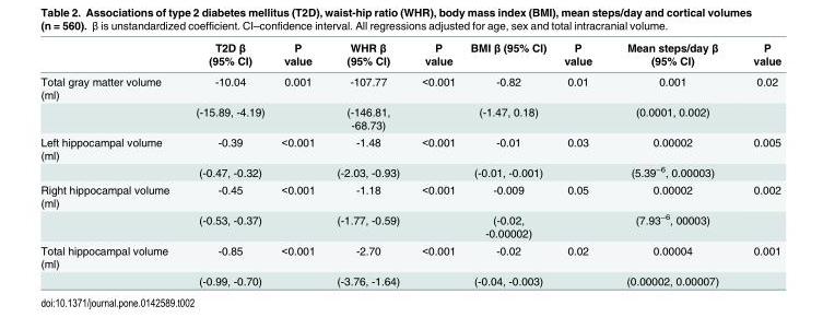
<table><thead><tr><td></td><td>T2D β (95% CI)</td><td>P value</td><td>WHR β (95% CI)</td><td>P value</td><td>BMI β (95% CI)</td><td>P value</td><td>Mean steps/day β (95% CI)</td><td>P value</td></tr></thead><tbody><tr><td rowspan="2">Total gray matter volume (ml)</td><td>-10.04</td><td>0.001</td><td>-107.77</td><td>&lt;0.001</td><td>-0.82</td><td>0.01</td><td>0.001</td><td>0.02</td></tr><tr><td>(-15.89, -4.19)</td><td></td><td>(-146.81, -68.73)</td><td></td><td>(-1.47, 0.18)</td><td></td><td>(0.0001, 0.002)</td><td></td></tr><tr><td rowspan="2">Left hippocampal volume (ml)</td><td>-0.39</td><td>&lt;0.001</td><td>-1.48</td><td>&lt;0.001</td><td>-0.01</td><td>0.03</td><td>0.00002</td><td>0.005</td></tr><tr><td>(-0.47, -0.32)</td><td></td><td>(-2.03, -0.93)</td><td></td><td>(-0.01, -0.001)</td><td></td><td>(5.39<sup>−6</sup>, 0.00003)</td><td></td></tr><tr><td rowspan="2">Right hippocampal volume (ml)</td><td>-0.45</td><td>&lt;0.001</td><td>-1.18</td><td>&lt;0.001</td><td>-0.009</td><td>0.05</td><td>0.00002</td><td>0.002</td></tr><tr><td>(-0.53, -0.37)</td><td></td><td>(-1.77, -0.59)</td><td></td><td>(-0.02, -0.00002)</td><td></td><td>(7.93<sup>−6</sup>, 00003)</td><td></td></tr><tr><td rowspan="2">Total hippocampal volume (ml)</td><td>-0.85</td><td>&lt;0.001</td><td>-2.70</td><td>&lt;0.001</td><td>-0.02</td><td>0.02</td><td>0.00004</td><td>0.001</td></tr><tr><td>(-0.99, -0.70)</td><td></td><td>(-3.76, -1.64)</td><td></td><td>(-0.04, -0.003)</td><td></td><td>(0.00002, 0.00007)</td><td></td></tr></tbody></table>